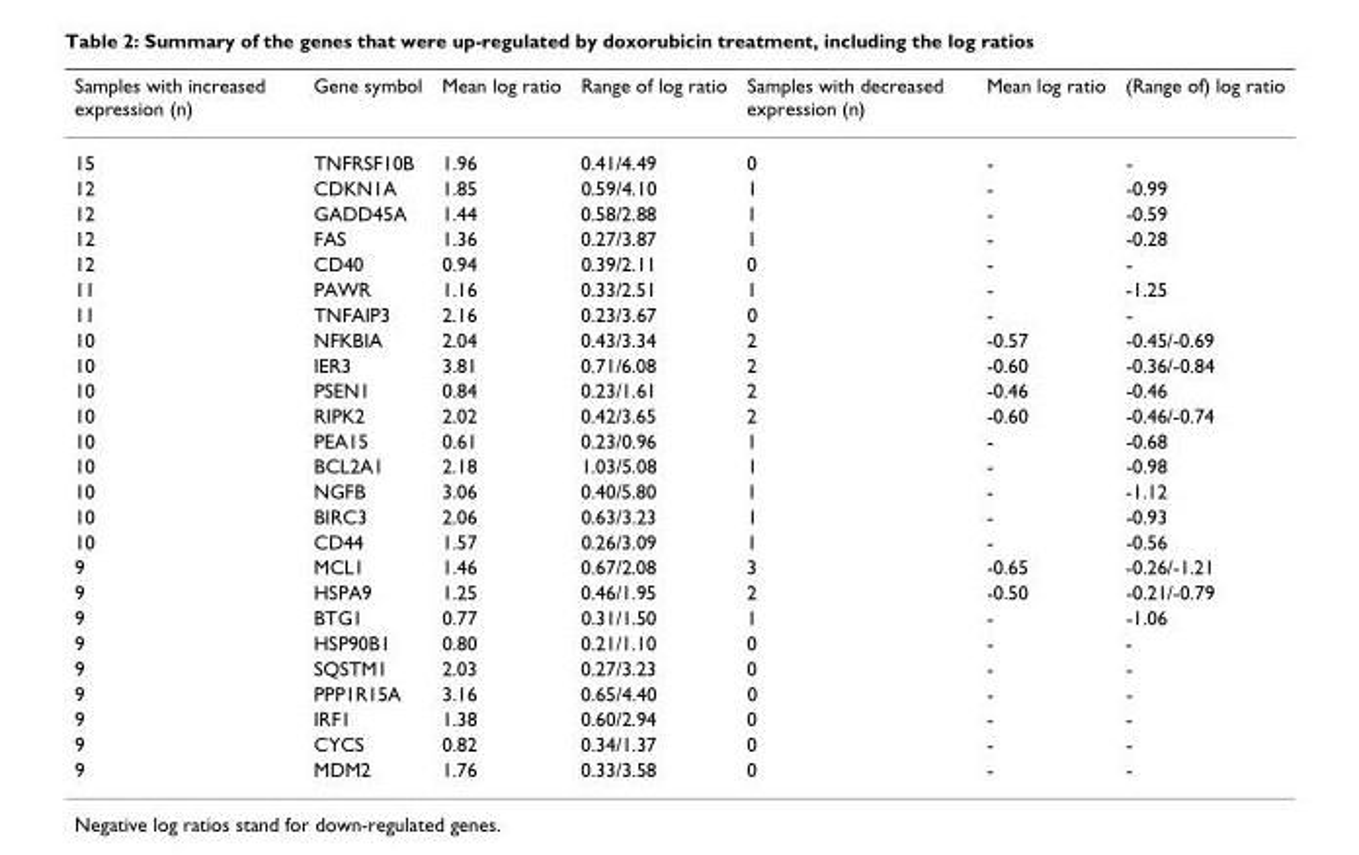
<table><thead><tr><td>Samples with increased expression (n)</td><td>Gene symbol</td><td>Mean log ratio</td><td>Range of log ratio</td><td>Samples with decreased expression (n)</td><td>Mean log ratio</td><td>(Range of) log ratio</td></tr></thead><tbody><tr><td>15</td><td>TNFRSF10B</td><td>1.96</td><td>0.41/4.49</td><td>0</td><td>-</td><td>-</td></tr><tr><td>12</td><td>CDKN1A</td><td>1.85</td><td>0.59/4.10</td><td>1</td><td>-</td><td>-0.99</td></tr><tr><td>12</td><td>GADD45A</td><td>1.44</td><td>0.58/2.88</td><td>1</td><td>-</td><td>-0.59</td></tr><tr><td>12</td><td>FAS</td><td>1.36</td><td>0.27/3.87</td><td>1</td><td>-</td><td>-0.28</td></tr><tr><td>12</td><td>CD40</td><td>0.94</td><td>0.39/2.11</td><td>0</td><td>-</td><td>-</td></tr><tr><td>11</td><td>PAWR</td><td>1.16</td><td>0.33/2.51</td><td>1</td><td>-</td><td>-1.25</td></tr><tr><td>11</td><td>TNFAIP3</td><td>2.16</td><td>0.23/3.67</td><td>0</td><td>-</td><td>-</td></tr><tr><td>10</td><td>NFKBIA</td><td>2.04</td><td>0.43/3.34</td><td>2</td><td>-0.57</td><td>-0.45/-0.69</td></tr><tr><td>10</td><td>IER3</td><td>3.81</td><td>0.71/6.08</td><td>2</td><td>-0.60</td><td>-0.36/-0.84</td></tr><tr><td>10</td><td>PSEN1</td><td>0.84</td><td>0.23/1.61</td><td>2</td><td>-0.46</td><td>-0.46</td></tr><tr><td>10</td><td>RIPK2</td><td>2.02</td><td>0.42/3.65</td><td>2</td><td>-0.60</td><td>-0.46/-0.74</td></tr><tr><td>10</td><td>PEA15</td><td>0.61</td><td>0.23/0.96</td><td>1</td><td>-</td><td>-0.68</td></tr><tr><td>10</td><td>BCL2A1</td><td>2.18</td><td>1.03/5.08</td><td>1</td><td>-</td><td>-0.98</td></tr><tr><td>10</td><td>NGFB</td><td>3.06</td><td>0.40/5.80</td><td>1</td><td>-</td><td>-1.12</td></tr><tr><td>10</td><td>BIRC3</td><td>2.06</td><td>0.63/3.23</td><td>1</td><td>-</td><td>-0.93</td></tr><tr><td>10</td><td>CD44</td><td>1.57</td><td>0.26/3.09</td><td>1</td><td>-</td><td>-0.56</td></tr><tr><td>9</td><td>MCL1</td><td>1.46</td><td>0.67/2.08</td><td>3</td><td>-0.65</td><td>-0.26/-1.21</td></tr><tr><td>9</td><td>HSPA9</td><td>1.25</td><td>0.46/1.95</td><td>2</td><td>-0.50</td><td>-0.21/-0.79</td></tr><tr><td>9</td><td>BTG1</td><td>0.77</td><td>0.31/1.50</td><td>1</td><td>-</td><td>-1.06</td></tr><tr><td>9</td><td>HSP90B1</td><td>0.80</td><td>0.21/1.10</td><td>0</td><td>-</td><td>-</td></tr><tr><td>9</td><td>SQSTM1</td><td>2.03</td><td>0.27/3.23</td><td>0</td><td>-</td><td>-</td></tr><tr><td>9</td><td>PPP1R15A</td><td>3.16</td><td>0.65/4.40</td><td>0</td><td>-</td><td>-</td></tr><tr><td>9</td><td>IRF1</td><td>1.38</td><td>0.60/2.94</td><td>0</td><td>-</td><td>-</td></tr><tr><td>9</td><td>CYCS</td><td>0.82</td><td>0.34/1.37</td><td>0</td><td>-</td><td>-</td></tr><tr><td>9</td><td>MDM2</td><td>1.76</td><td>0.33/3.58</td><td>0</td><td>-</td><td>-</td></tr></tbody></table>